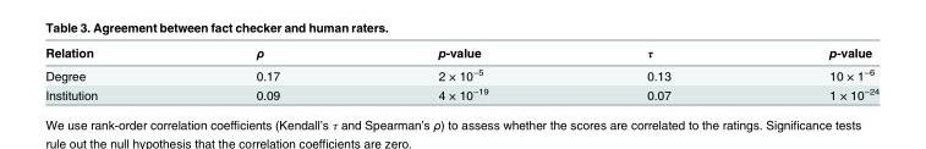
<table><thead><tr><td>Relation</td><td>ρ</td><td>p-value</td><td>τ</td><td>p-value</td></tr></thead><tbody><tr><td>Degree</td><td>0.17</td><td>2 × 10<sup>−5</sup></td><td>0.13</td><td>10 × 1<sup>−6</sup></td></tr><tr><td>Institution</td><td>0.09</td><td>4 × 10<sup>−19</sup></td><td>0.07</td><td>1 × 10<sup>−24</sup></td></tr></tbody></table>